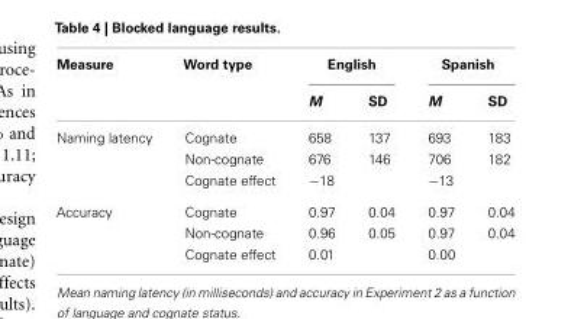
<table><thead><tr><td rowspan="2">Measure</td><td rowspan="2">Word type</td><td colspan="2">English</td><td colspan="2">Spanish</td></tr><tr><td>M</td><td>SD</td><td>M</td><td>SD</td></tr></thead><tbody><tr><td rowspan="3">Naming latency</td><td>Cognate</td><td>658</td><td>137</td><td>693</td><td>183</td></tr><tr><td>Non-cognate</td><td>676</td><td>146</td><td>706</td><td>182</td></tr><tr><td>Cognate effect</td><td>−18</td><td></td><td>−13</td><td></td></tr><tr><td rowspan="3">Accuracy</td><td>Cognate</td><td>0.97</td><td>0.04</td><td>0.97</td><td>0.04</td></tr><tr><td>Non-cognate</td><td>0.96</td><td>0.05</td><td>0.97</td><td>0.04</td></tr><tr><td>Cognate effect</td><td>0.01</td><td></td><td>0.00</td><td></td></tr></tbody></table>